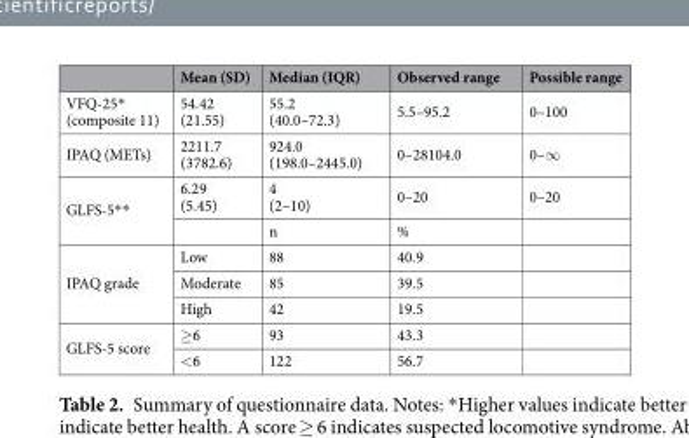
<table><thead><tr><td></td><td>Mean (SD)</td><td>Median (IQR)</td><td>Observed range</td><td>Possible range</td></tr></thead><tbody><tr><td>VFQ-25* (composite 11)</td><td>54.42 (21.55)</td><td>55.2 (40.0–72.3)</td><td>5.5–95.2</td><td>0–100</td></tr><tr><td>IPAQ (METs)</td><td>2211.7 (3782.6)</td><td>924.0 (198.0–2445.0)</td><td>0–28104.0</td><td>0–∞</td></tr><tr><td rowspan="2">GLFS-5**</td><td>6.29 (5.45)</td><td>4 (2–10)</td><td>0–20</td><td>0–20</td></tr><tr><td></td><td>n</td><td>%</td><td></td></tr><tr><td rowspan="3">IPAQ grade</td><td>Low</td><td>88</td><td>40.9</td><td></td></tr><tr><td>Moderate</td><td>85</td><td>39.5</td><td></td></tr><tr><td>High</td><td>42</td><td>19.5</td><td></td></tr><tr><td rowspan="2">GLFS-5 score</td><td>≥6</td><td>93</td><td>43.3</td><td></td></tr><tr><td>&lt;6</td><td>122</td><td>56.7</td><td></td></tr></tbody></table>